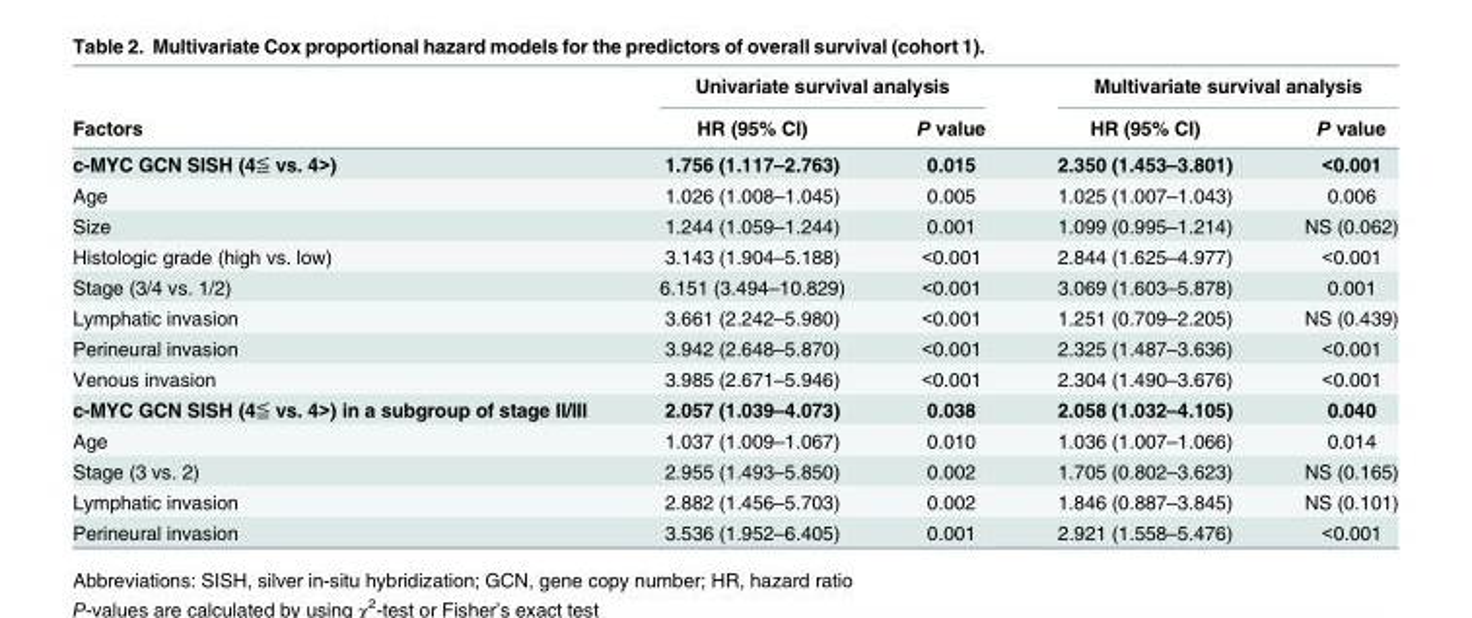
<table><thead><tr><td rowspan="2">Factors</td><td colspan="2">Univariate survival analysis</td><td colspan="2">Multivariate survival analysis</td></tr><tr><td>HR (95% CI)</td><td>P value</td><td>HR (95% CI)</td><td>P value</td></tr></thead><tbody><tr><td>c-MYC GCN SISH (4≦ vs. 4&gt;)</td><td>1.756 (1.117–2.763)</td><td>0.015</td><td>2.350 (1.453–3.801)</td><td>&lt;0.001</td></tr><tr><td>Age</td><td>1.026 (1.008–1.045)</td><td>0.005</td><td>1.025 (1.007–1.043)</td><td>0.006</td></tr><tr><td>Size</td><td>1.244 (1.059–1.244)</td><td>0.001</td><td>1.099 (0.995–1.214)</td><td>NS (0.062)</td></tr><tr><td>Histologic grade (high vs. low)</td><td>3.143 (1.904–5.188)</td><td>&lt;0.001</td><td>2.844 (1.625–4.977)</td><td>&lt;0.001</td></tr><tr><td>Stage (3/4 vs. 1/2)</td><td>6.151 (3.494–10.829)</td><td>&lt;0.001</td><td>3.069 (1.603–5.878)</td><td>0.001</td></tr><tr><td>Lymphatic invasion</td><td>3.661 (2.242–5.980)</td><td>&lt;0.001</td><td>1.251 (0.709–2.205)</td><td>NS (0.439)</td></tr><tr><td>Perineural invasion</td><td>3.942 (2.648–5.870)</td><td>&lt;0.001</td><td>2.325 (1.487–3.636)</td><td>&lt;0.001</td></tr><tr><td>Venous invasion</td><td>3.985 (2.671–5.946)</td><td>&lt;0.001</td><td>2.304 (1.490–3.676)</td><td>&lt;0.001</td></tr><tr><td>c-MYC GCN SISH (4≦ vs. 4&gt;) in a subgroup of stage II/III</td><td>2.057 (1.039–4.073)</td><td>0.038</td><td>2.058 (1.032–4.105)</td><td>0.040</td></tr><tr><td>Age</td><td>1.037 (1.009–1.067)</td><td>0.010</td><td>1.036 (1.007–1.066)</td><td>0.014</td></tr><tr><td>Stage (3 vs. 2)</td><td>2.955 (1.493–5.850)</td><td>0.002</td><td>1.705 (0.802–3.623)</td><td>NS (0.165)</td></tr><tr><td>Lymphatic invasion</td><td>2.882 (1.456–5.703)</td><td>0.002</td><td>1.846 (0.887–3.845)</td><td>NS (0.101)</td></tr><tr><td>Perineural invasion</td><td>3.536 (1.952–6.405)</td><td>0.001</td><td>2.921 (1.558–5.476)</td><td>&lt;0.001</td></tr></tbody></table>